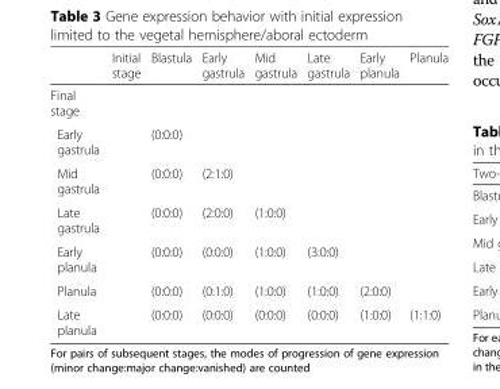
<table><thead><tr><td></td><td>Initial stage</td><td>Blastula</td><td>Early gastrula</td><td>Mid gastrula</td><td>Late gastrula</td><td>Early planula</td><td>Planula</td></tr></thead><tbody><tr><td colspan="8">Final stage</td></tr><tr><td>Early gastrula</td><td></td><td>(0:0:0)</td><td></td><td></td><td></td><td></td><td></td></tr><tr><td>Mid gastrula</td><td></td><td>(0:0:0)</td><td>(2:1:0)</td><td></td><td></td><td></td><td></td></tr><tr><td>Late gastrula</td><td></td><td>(0:0:0)</td><td>(2:0:0)</td><td>(1:0:0)</td><td></td><td></td><td></td></tr><tr><td>Early planula</td><td></td><td>(0:0:0)</td><td>(0:0:0)</td><td>(1:0:0)</td><td>(3:0:0)</td><td></td><td></td></tr><tr><td>Planula</td><td></td><td>(0:0:0)</td><td>(0:1:0)</td><td>(1:0:0)</td><td>(1:0:0)</td><td>(2:0:0)</td><td></td></tr><tr><td>Late planula</td><td></td><td>(0:0:0)</td><td>(0:0:0)</td><td>(0:0:0)</td><td>(0:0:0)</td><td>(1:0:0)</td><td>(1:1:0)</td></tr></tbody></table>